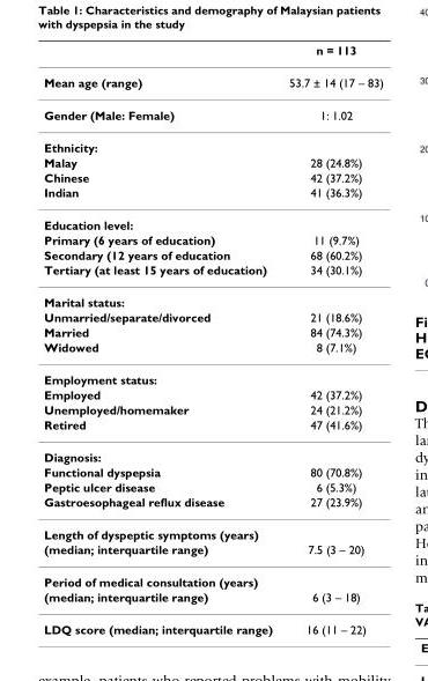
<table><thead><tr><td></td><td>n = 113</td></tr></thead><tbody><tr><td>Mean age (range)</td><td>53.7 ± 14 (17 – 83)</td></tr><tr><td>Gender (Male: Female)</td><td>1: 1.02</td></tr><tr><td colspan="2">Ethnicity:</td></tr><tr><td>Malay</td><td>28 (24.8%)</td></tr><tr><td>Chinese</td><td>42 (37.2%)</td></tr><tr><td>Indian</td><td>41 (36.3%)</td></tr><tr><td colspan="2">Education level:</td></tr><tr><td>Primary (6 years of education)</td><td>11 (9.7%)</td></tr><tr><td>Secondary (12 years of education</td><td>68 (60.2%)</td></tr><tr><td>Tertiary (at least 15 years of education)</td><td>34 (30.1%)</td></tr><tr><td colspan="2">Marital status:</td></tr><tr><td>Unmarried/separate/divorced</td><td>21 (18.6%)</td></tr><tr><td>Married</td><td>84 (74.3%)</td></tr><tr><td>Widowed</td><td>8 (7.1%)</td></tr><tr><td colspan="2">Employment status:</td></tr><tr><td>Employed</td><td>42 (37.2%)</td></tr><tr><td>Unemployed/homemaker</td><td>24 (21.2%)</td></tr><tr><td>Retired</td><td>47 (41.6%)</td></tr><tr><td colspan="2">Diagnosis:</td></tr><tr><td>Functional dyspepsia</td><td>80 (70.8%)</td></tr><tr><td>Peptic ulcer disease</td><td>6 (5.3%)</td></tr><tr><td>Gastroesophageal reflux disease</td><td>27 (23.9%)</td></tr><tr><td colspan="2">Length of dyspeptic symptoms (years)</td></tr><tr><td>(median; interquartile range)</td><td>7.5 (3 – 20)</td></tr><tr><td colspan="2">Period of medical consultation (years)</td></tr><tr><td>(median; interquartile range)</td><td>6 (3 – 18)</td></tr><tr><td>LDQ score (median; interquartile range)</td><td>16 (11 – 22)</td></tr></tbody></table>